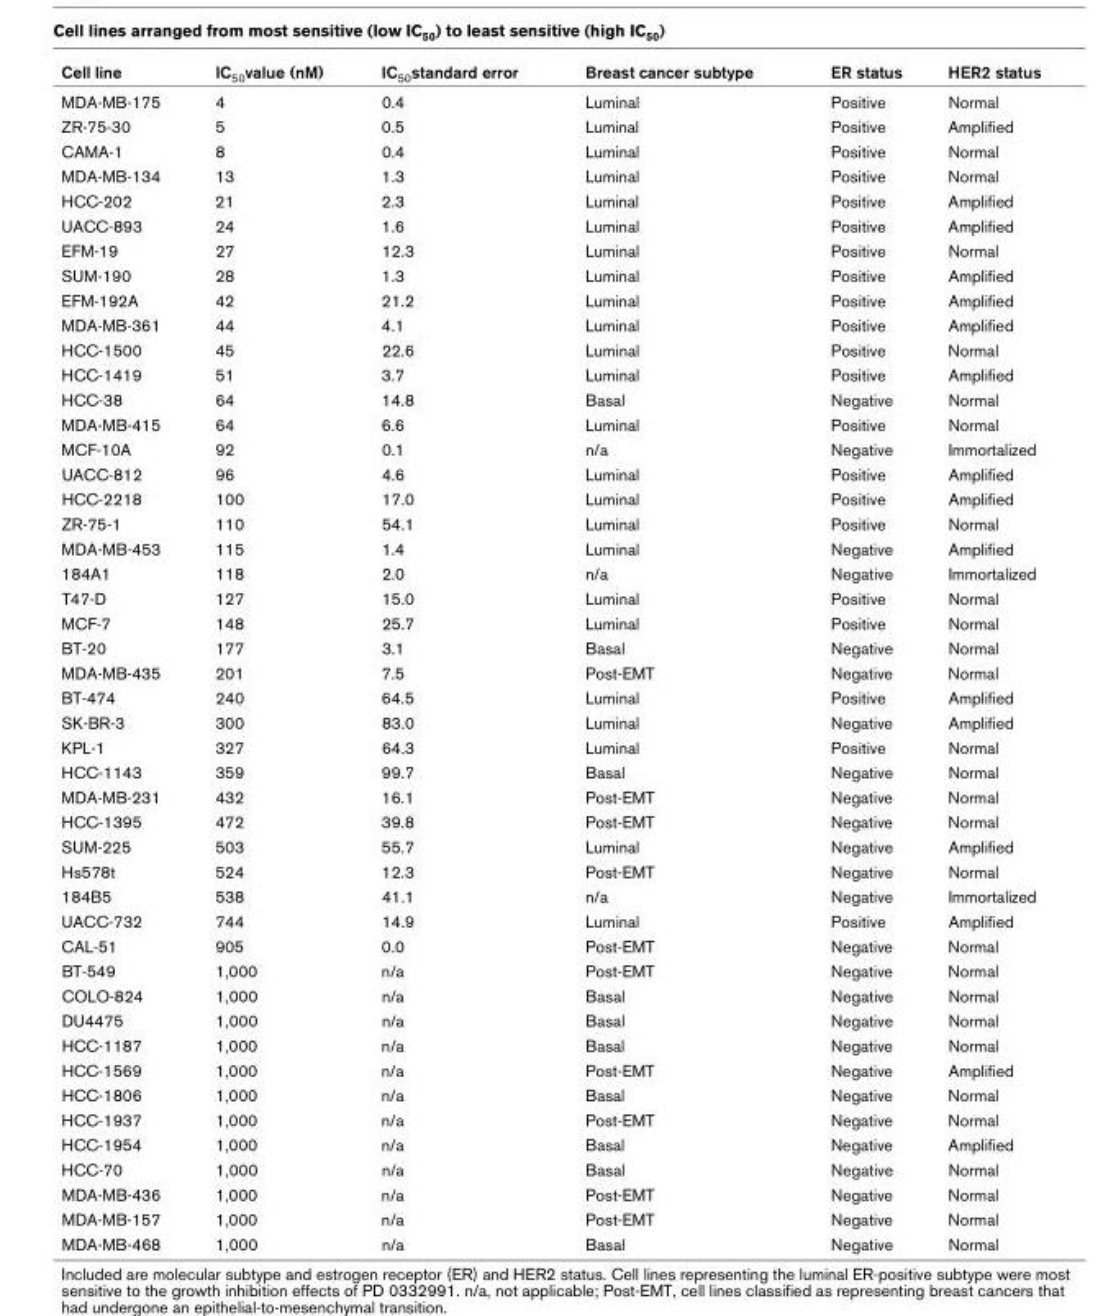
<table><thead><tr><td>Cell line</td><td>IC<sub>50</sub>value (nM)</td><td>IC<sub>50</sub>standard error</td><td>Breast cancer subtype</td><td>ER status</td><td>HER2 status</td></tr></thead><tbody><tr><td>MDA-MB-175</td><td>4</td><td>0.4</td><td>Luminal</td><td>Positive</td><td>Normal</td></tr><tr><td>ZR-75-30</td><td>5</td><td>0.5</td><td>Luminal</td><td>Positive</td><td>Amplified</td></tr><tr><td>CAMA-1</td><td>8</td><td>0.4</td><td>Luminal</td><td>Positive</td><td>Normal</td></tr><tr><td>MDA-MB-134</td><td>13</td><td>1.3</td><td>Luminal</td><td>Positive</td><td>Normal</td></tr><tr><td>HCC-202</td><td>21</td><td>2.3</td><td>Luminal</td><td>Positive</td><td>Amplified</td></tr><tr><td>UACC-893</td><td>24</td><td>1.6</td><td>Luminal</td><td>Positive</td><td>Amplified</td></tr><tr><td>EFM-19</td><td>27</td><td>12.3</td><td>Luminal</td><td>Positive</td><td>Normal</td></tr><tr><td>SUM-190</td><td>28</td><td>1.3</td><td>Luminal</td><td>Positive</td><td>Amplified</td></tr><tr><td>EFM-192A</td><td>42</td><td>21.2</td><td>Luminal</td><td>Positive</td><td>Amplified</td></tr><tr><td>MDA-MB-361</td><td>44</td><td>4.1</td><td>Luminal</td><td>Positive</td><td>Amplified</td></tr><tr><td>HCC-1500</td><td>45</td><td>22.6</td><td>Luminal</td><td>Positive</td><td>Normal</td></tr><tr><td>HCC-1419</td><td>51</td><td>3.7</td><td>Luminal</td><td>Positive</td><td>Amplified</td></tr><tr><td>HCC-38</td><td>64</td><td>14.8</td><td>Basal</td><td>Negative</td><td>Normal</td></tr><tr><td>MDA-MB-415</td><td>64</td><td>6.6</td><td>Luminal</td><td>Positive</td><td>Normal</td></tr><tr><td>MCF-10A</td><td>92</td><td>0.1</td><td>n/a</td><td>Negative</td><td>Immortalized</td></tr><tr><td>UACC-812</td><td>96</td><td>4.6</td><td>Luminal</td><td>Positive</td><td>Amplified</td></tr><tr><td>HCC-2218</td><td>100</td><td>17.0</td><td>Luminal</td><td>Positive</td><td>Amplified</td></tr><tr><td>ZR-75-1</td><td>110</td><td>54.1</td><td>Luminal</td><td>Positive</td><td>Normal</td></tr><tr><td>MDA-MB-453</td><td>115</td><td>1.4</td><td>Luminal</td><td>Negative</td><td>Amplified</td></tr><tr><td>184A1</td><td>118</td><td>2.0</td><td>n/a</td><td>Negative</td><td>Immortalized</td></tr><tr><td>T47-D</td><td>127</td><td>15.0</td><td>Luminal</td><td>Positive</td><td>Normal</td></tr><tr><td>MCF-7</td><td>148</td><td>25.7</td><td>Luminal</td><td>Positive</td><td>Normal</td></tr><tr><td>BT-20</td><td>177</td><td>3.1</td><td>Basal</td><td>Negative</td><td>Normal</td></tr><tr><td>MDA-MB-435</td><td>201</td><td>7.5</td><td>Post-EMT</td><td>Negative</td><td>Normal</td></tr><tr><td>BT-474</td><td>240</td><td>64.5</td><td>Luminal</td><td>Positive</td><td>Amplified</td></tr><tr><td>SK-BR-3</td><td>300</td><td>83.0</td><td>Luminal</td><td>Negative</td><td>Amplified</td></tr><tr><td>KPL-1</td><td>327</td><td>64.3</td><td>Luminal</td><td>Positive</td><td>Normal</td></tr><tr><td>HCC-1143</td><td>359</td><td>99.7</td><td>Basal</td><td>Negative</td><td>Normal</td></tr><tr><td>MDA-MB-231</td><td>432</td><td>16.1</td><td>Post-EMT</td><td>Negative</td><td>Normal</td></tr><tr><td>HCC-1395</td><td>472</td><td>39.8</td><td>Post-EMT</td><td>Negative</td><td>Normal</td></tr><tr><td>SUM-225</td><td>503</td><td>55.7</td><td>Luminal</td><td>Negative</td><td>Amplified</td></tr><tr><td>Hs578t</td><td>524</td><td>12.3</td><td>Post-EMT</td><td>Negative</td><td>Normal</td></tr><tr><td>184B5</td><td>538</td><td>41.1</td><td>n/a</td><td>Negative</td><td>Immortalized</td></tr><tr><td>UACC-732</td><td>744</td><td>14.9</td><td>Luminal</td><td>Positive</td><td>Amplified</td></tr><tr><td>CAL-51</td><td>905</td><td>0.0</td><td>Post-EMT</td><td>Negative</td><td>Normal</td></tr><tr><td>BT-549</td><td>1,000</td><td>n/a</td><td>Post-EMT</td><td>Negative</td><td>Normal</td></tr><tr><td>COLO-824</td><td>1,000</td><td>n/a</td><td>Basal</td><td>Negative</td><td>Normal</td></tr><tr><td>DU4475</td><td>1,000</td><td>n/a</td><td>Basal</td><td>Negative</td><td>Normal</td></tr><tr><td>HCC-1187</td><td>1,000</td><td>n/a</td><td>Basal</td><td>Negative</td><td>Normal</td></tr><tr><td>HCC-1569</td><td>1,000</td><td>n/a</td><td>Post-EMT</td><td>Negative</td><td>Amplified</td></tr><tr><td>HCC-1806</td><td>1,000</td><td>n/a</td><td>Basal</td><td>Negative</td><td>Normal</td></tr><tr><td>HCC-1937</td><td>1,000</td><td>n/a</td><td>Post-EMT</td><td>Negative</td><td>Normal</td></tr><tr><td>HCC-1954</td><td>1,000</td><td>n/a</td><td>Basal</td><td>Negative</td><td>Amplified</td></tr><tr><td>HCC-70</td><td>1,000</td><td>n/a</td><td>Basal</td><td>Negative</td><td>Normal</td></tr><tr><td>MDA-MB-436</td><td>1,000</td><td>n/a</td><td>Post-EMT</td><td>Negative</td><td>Normal</td></tr><tr><td>MDA-MB-157</td><td>1,000</td><td>n/a</td><td>Post-EMT</td><td>Negative</td><td>Normal</td></tr><tr><td>MDA-MB-468</td><td>1,000</td><td>n/a</td><td>Basal</td><td>Negative</td><td>Normal</td></tr></tbody></table>